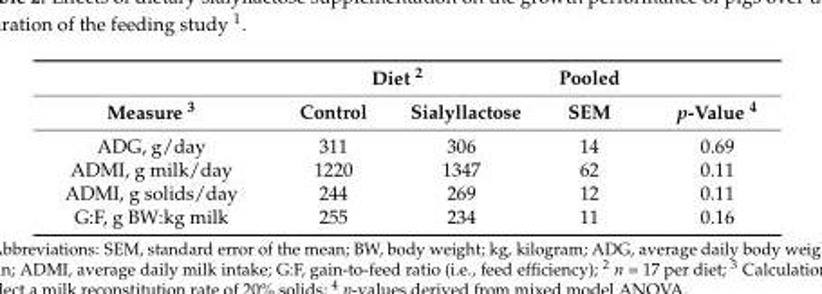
<table><thead><tr><td rowspan="2">Measure <sup>3</sup></td><td colspan="2">Diet <sup>2</sup></td><td rowspan="2">Pooled SEM</td><td rowspan="2">p-Value <sup>4</sup></td></tr><tr><td>Control</td><td>Sialyllactose</td></tr></thead><tbody><tr><td>ADG, g/day</td><td>311</td><td>306</td><td>14</td><td>0.69</td></tr><tr><td>ADMI, g milk/day</td><td>1220</td><td>1347</td><td>62</td><td>0.11</td></tr><tr><td>ADMI, g solids/day</td><td>244</td><td>269</td><td>12</td><td>0.11</td></tr><tr><td>G:F, g BW:kg milk</td><td>255</td><td>234</td><td>11</td><td>0.16</td></tr></tbody></table>